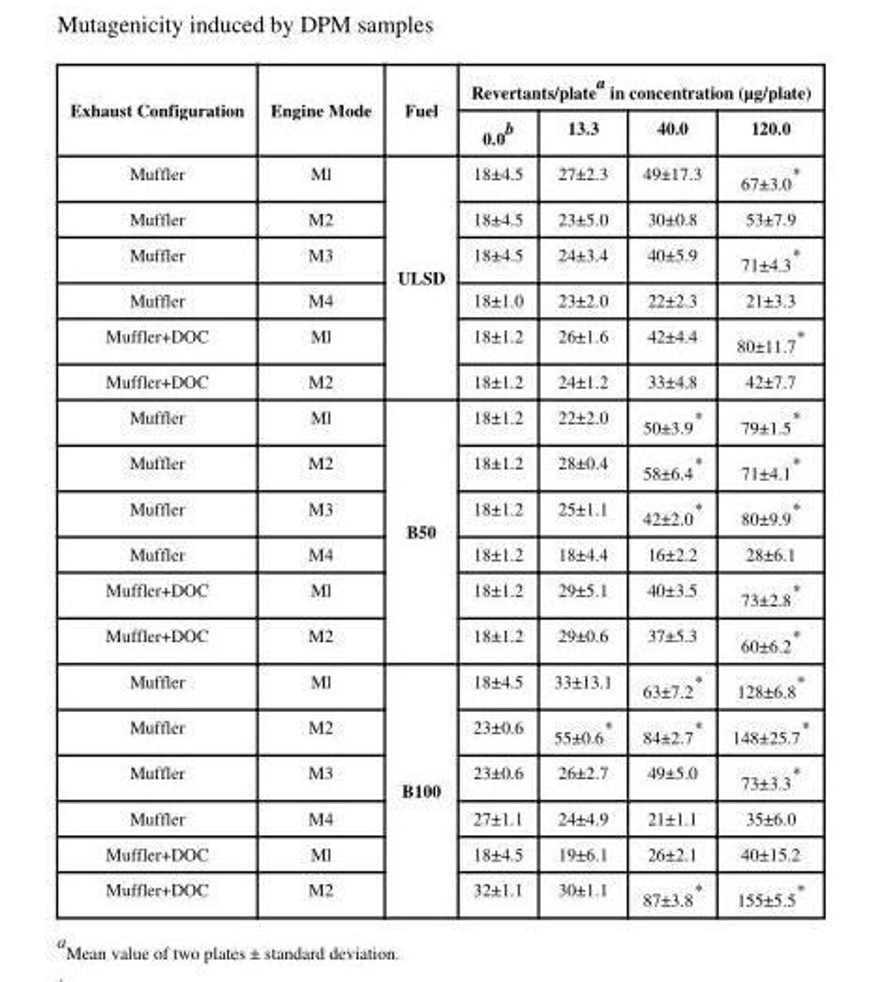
<table><thead><tr><td rowspan="2">Exhaust Configuration</td><td rowspan="2">Engine Mode</td><td rowspan="2">Fuel</td><td colspan="4">Revertants/plate<sup>a</sup> in concentration (μg/plate)</td></tr><tr><td>0.0<sup>b</sup></td><td>13.3</td><td>40.0</td><td>120.0</td></tr></thead><tbody><tr><td>Muffler</td><td>Ml</td><td rowspan="6">ULSD</td><td>18±4.5</td><td>27±2.3</td><td>49±17.3</td><td>67±3.0*</td></tr><tr><td>Muffler</td><td>M2</td><td>18±4.5</td><td>23±5.0</td><td>30±0.8</td><td>53±7.9</td></tr><tr><td>Muffler</td><td>M3</td><td>18±4.5</td><td>24±3.4</td><td>40±5.9</td><td>71±4.3*</td></tr><tr><td>Muffler</td><td>M4</td><td>18±1.0</td><td>23±2.0</td><td>22±2.3</td><td>21±3.3</td></tr><tr><td>Muffler+DOC</td><td>Ml</td><td>18±1.2</td><td>26±1.6</td><td>42±4.4</td><td>80±11.7*</td></tr><tr><td>Muffler+DOC</td><td>M2</td><td>18±1.2</td><td>24±1.2</td><td>33±4.8</td><td>42±7.7</td></tr><tr><td>Muffler</td><td>Ml</td><td rowspan="6">B50</td><td>18±1.2</td><td>22±2.0</td><td>50±3.9*</td><td>79±1.5*</td></tr><tr><td>Muffler</td><td>M2</td><td>18±1.2</td><td>28±0.4</td><td>58±6.4*</td><td>71±4.1*</td></tr><tr><td>Muffler</td><td>M3</td><td>18±1.2</td><td>25±1.1</td><td>42±2.0*</td><td>80±9.9*</td></tr><tr><td>Muffler</td><td>M4</td><td>18±1.2</td><td>18±4.4</td><td>16±2.2</td><td>28±6.1</td></tr><tr><td>Muffler+DOC</td><td>Ml</td><td>18±1.2</td><td>29±5.1</td><td>40±3.5</td><td>73±2.8*</td></tr><tr><td>Muffler+DOC</td><td>M2</td><td>18±1.2</td><td>29±0.6</td><td>37±5.3</td><td>60±6.2*</td></tr><tr><td>Muffler</td><td>Ml</td><td rowspan="6">B100</td><td>18±4.5</td><td>33±13.1</td><td>63±7.2*</td><td>128±6.8*</td></tr><tr><td>Muffler</td><td>M2</td><td>23±0.6</td><td>55±0.6*</td><td>84±2.7*</td><td>148±25.7*</td></tr><tr><td>Muffler</td><td>M3</td><td>23±0.6</td><td>26±2.7</td><td>49±5.0</td><td>73±3.3*</td></tr><tr><td>Muffler</td><td>M4</td><td>27±1.1</td><td>24±4.9</td><td>21±1.1</td><td>35±6.0</td></tr><tr><td>Muffler+DOC</td><td>Ml</td><td>18±4.5</td><td>19±6.1</td><td>26±2.1</td><td>40±15.2</td></tr><tr><td>Muffler+DOC</td><td>M2</td><td>32±1.1</td><td>30±1.1</td><td>87±3.8*</td><td>155±5.5*</td></tr></tbody></table>